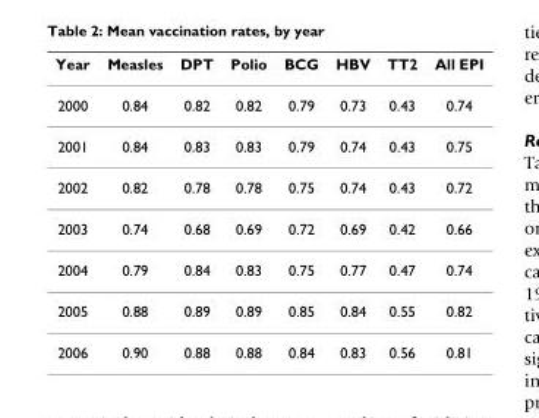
<table><thead><tr><td>Year</td><td>Measles</td><td>DPT</td><td>Polio</td><td>BCG</td><td>HBV</td><td>TT2</td><td>All EPI</td></tr></thead><tbody><tr><td>2000</td><td>0.84</td><td>0.82</td><td>0.82</td><td>0.79</td><td>0.73</td><td>0.43</td><td>0.74</td></tr><tr><td>2001</td><td>0.84</td><td>0.83</td><td>0.83</td><td>0.79</td><td>0.74</td><td>0.43</td><td>0.75</td></tr><tr><td>2002</td><td>0.82</td><td>0.78</td><td>0.78</td><td>0.75</td><td>0.74</td><td>0.43</td><td>0.72</td></tr><tr><td>2003</td><td>0.74</td><td>0.68</td><td>0.69</td><td>0.72</td><td>0.69</td><td>0.42</td><td>0.66</td></tr><tr><td>2004</td><td>0.79</td><td>0.84</td><td>0.83</td><td>0.75</td><td>0.77</td><td>0.47</td><td>0.74</td></tr><tr><td>2005</td><td>0.88</td><td>0.89</td><td>0.89</td><td>0.85</td><td>0.84</td><td>0.55</td><td>0.82</td></tr><tr><td>2006</td><td>0.90</td><td>0.88</td><td>0.88</td><td>0.84</td><td>0.83</td><td>0.56</td><td>0.81</td></tr></tbody></table>